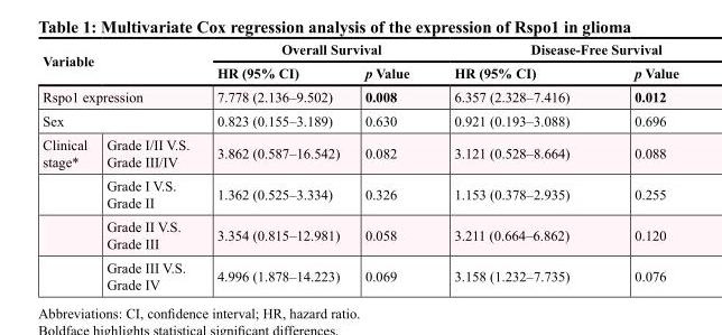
<table><thead><tr><td rowspan="4" colspan="2">Variable Rspo1 expression Sex</td><td colspan="2">Overall Survival</td><td colspan="2">Disease-Free Survival</td></tr><tr><td rowspan="4">HR (95% CI) 7.778 (2.136–9.502) 0.823 (0.155–3.189) 3.862 (0.587–16.542)</td><td rowspan="4">p Value 0.008 0.630 0.082</td><td rowspan="4">HR (95% CI) 6.357 (2.328–7.416) 0.921 (0.193–3.088) 3.121 (0.528–8.664)</td><td rowspan="4">p Value 0.012 0.696 0.088</td></tr><tr></tr><tr></tr><tr><td>Clinical stage*</td><td>Grade I/II V.S. Grade III/IV</td></tr></thead><tbody><tr><td></td><td>Grade I V.S. Grade II</td><td>1.362 (0.525–3.334)</td><td>0.326</td><td>1.153 (0.378–2.935)</td><td>0.255</td></tr><tr><td></td><td>Grade II V.S. Grade III</td><td>3.354 (0.815–12.981)</td><td>0.058</td><td>3.211 (0.664–6.862)</td><td>0.120</td></tr><tr><td></td><td>Grade III V.S. Grade IV</td><td>4.996 (1.878–14.223)</td><td>0.069</td><td>3.158 (1.232–7.735)</td><td>0.076</td></tr></tbody></table>